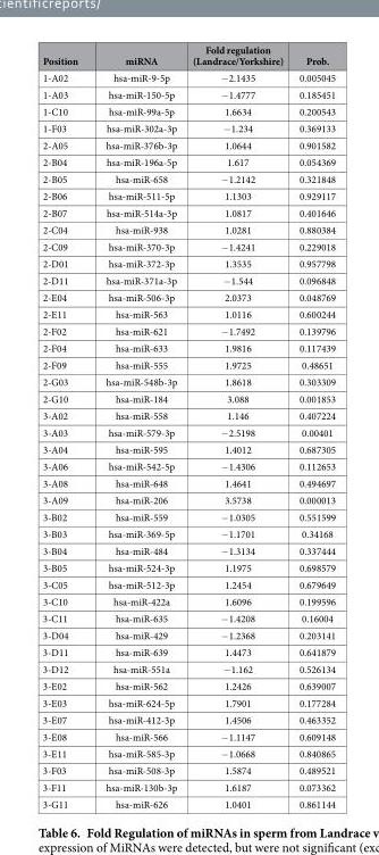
<table><thead><tr><td>Position</td><td>miRNA</td><td>Fold regulation (Landrace/Yorkshire)</td><td>Prob.</td></tr></thead><tbody><tr><td>1-A02</td><td>hsa-miR-9-5p</td><td>− 2.1435</td><td>0.005045</td></tr><tr><td>1-A03</td><td>hsa-miR-150-5p</td><td>− 1.4777</td><td>0.185451</td></tr><tr><td>1-C10</td><td>hsa-miR-99a-5p</td><td>1.6634</td><td>0.200543</td></tr><tr><td>1-F03</td><td>hsa-miR-302a-3p</td><td>− 1.234</td><td>0.369133</td></tr><tr><td>2-A05</td><td>hsa-miR-376b-3p</td><td>1.0644</td><td>0.901582</td></tr><tr><td>2-B04</td><td>hsa-miR-196a-5p</td><td>1.617</td><td>0.054369</td></tr><tr><td>2-B05</td><td>hsa-miR-658</td><td>− 1.2142</td><td>0.321848</td></tr><tr><td>2-B06</td><td>hsa-miR-511-5p</td><td>1.1303</td><td>0.929117</td></tr><tr><td>2-B07</td><td>hsa-miR-514a-3p</td><td>1.0817</td><td>0.401646</td></tr><tr><td>2-C04</td><td>hsa-miR-938</td><td>1.0281</td><td>0.880384</td></tr><tr><td>2-C09</td><td>hsa-miR-370-3p</td><td>− 1.4241</td><td>0.229018</td></tr><tr><td>2-D01</td><td>hsa-miR-372-3p</td><td>1.3535</td><td>0.957798</td></tr><tr><td>2-D11</td><td>hsa-miR-371a-3p</td><td>− 1.544</td><td>0.096848</td></tr><tr><td>2-E04</td><td>hsa-miR-506-3p</td><td>2.0373</td><td>0.048769</td></tr><tr><td>2-E11</td><td>hsa-miR-563</td><td>1.0116</td><td>0.600244</td></tr><tr><td>2-F02</td><td>hsa-miR-621</td><td>− 1.7492</td><td>0.139796</td></tr><tr><td>2-F04</td><td>hsa-miR-633</td><td>1.9816</td><td>0.117439</td></tr><tr><td>2-F09</td><td>hsa-miR-555</td><td>1.9725</td><td>0.48651</td></tr><tr><td>2-G03</td><td>hsa-miR-548b-3p</td><td>1.8618</td><td>0.303309</td></tr><tr><td>2-G10</td><td>hsa-miR-184</td><td>3.088</td><td>0.001853</td></tr><tr><td>3-A02</td><td>hsa-miR-558</td><td>1.146</td><td>0.407224</td></tr><tr><td>3-A03</td><td>hsa-miR-579-3p</td><td>− 2.5198</td><td>0.00401</td></tr><tr><td>3-A04</td><td>hsa-miR-595</td><td>1.4012</td><td>0.687305</td></tr><tr><td>3-A06</td><td>hsa-miR-542-5p</td><td>− 1.4306</td><td>0.112653</td></tr><tr><td>3-A08</td><td>hsa-miR-648</td><td>1.4641</td><td>0.494697</td></tr><tr><td>3-A09</td><td>hsa-miR-206</td><td>3.5738</td><td>0.000013</td></tr><tr><td>3-B02</td><td>hsa-miR-559</td><td>− 1.0305</td><td>0.551599</td></tr><tr><td>3-B03</td><td>hsa-miR-369-5p</td><td>− 1.1701</td><td>0.34168</td></tr><tr><td>3-B04</td><td>hsa-miR-484</td><td>− 1.3134</td><td>0.337444</td></tr><tr><td>3-B05</td><td>hsa-miR-524-3p</td><td>1.1975</td><td>0.698579</td></tr><tr><td>3-C05</td><td>hsa-miR-512-3p</td><td>1.2454</td><td>0.679649</td></tr><tr><td>3-C10</td><td>hsa-miR-422a</td><td>1.6096</td><td>0.199596</td></tr><tr><td>3-C11</td><td>hsa-miR-635</td><td>− 1.4208</td><td>0.16004</td></tr><tr><td>3-D04</td><td>hsa-miR-429</td><td>− 1.2368</td><td>0.203141</td></tr><tr><td>3-D11</td><td>hsa-miR-639</td><td>1.4473</td><td>0.641879</td></tr><tr><td>3-D12</td><td>hsa-miR-551a</td><td>− 1.162</td><td>0.526134</td></tr><tr><td>3-E02</td><td>hsa-miR-562</td><td>1.2426</td><td>0.639007</td></tr><tr><td>3-E03</td><td>hsa-miR-624-5p</td><td>1.7901</td><td>0.177284</td></tr><tr><td>3-E07</td><td>hsa-miR-412-3p</td><td>1.4506</td><td>0.463352</td></tr><tr><td>3-E08</td><td>hsa-miR-566</td><td>− 1.1147</td><td>0.609148</td></tr><tr><td>3-E11</td><td>hsa-miR-585-3p</td><td>− 1.0668</td><td>0.840865</td></tr><tr><td>3-F03</td><td>hsa-miR-508-3p</td><td>1.5874</td><td>0.489521</td></tr><tr><td>3-F11</td><td>hsa-miR-130b-3p</td><td>1.6187</td><td>0.073362</td></tr><tr><td>3-G11</td><td>hsa-miR-626</td><td>1.0401</td><td>0.861144</td></tr></tbody></table>